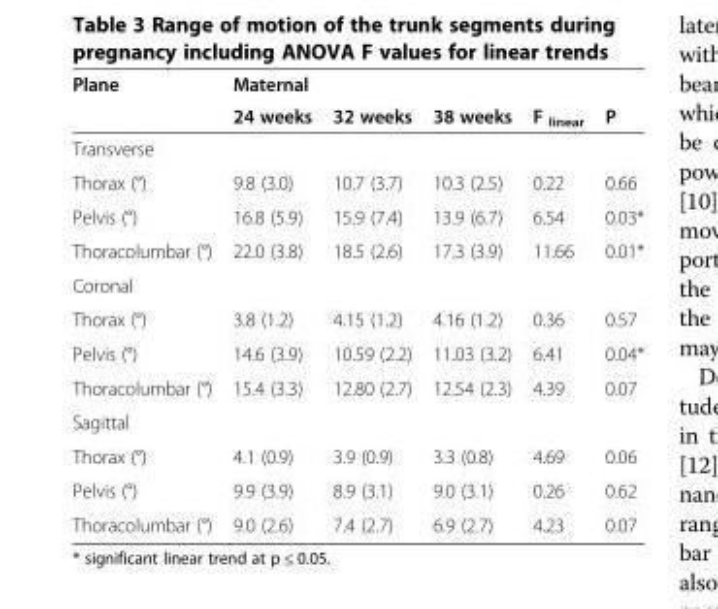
<table><thead><tr><td>Plane</td><td>Maternal 24 weeks</td><td>32 weeks</td><td>38 weeks</td><td>F <sub>linear</sub></td><td>P</td></tr></thead><tbody><tr><td colspan="6">Transverse</td></tr><tr><td>Thorax (°)</td><td>9.8 (3.0)</td><td>10.7 (3.7)</td><td>10.3 (2.5)</td><td>0.22</td><td>0.66</td></tr><tr><td>Pelvis (°)</td><td>16.8 (5.9)</td><td>15.9 (7.4)</td><td>13.9 (6.7)</td><td>6.54</td><td>0.03*</td></tr><tr><td>Thoracolumbar (°)</td><td>22.0 (3.8)</td><td>18.5 (2.6)</td><td>17.3 (3.9)</td><td>11.66</td><td>0.01*</td></tr><tr><td colspan="6">Coronal</td></tr><tr><td>Thorax (°)</td><td>3.8 (1.2)</td><td>4.15 (1.2)</td><td>4.16 (1.2)</td><td>0.36</td><td>0.57</td></tr><tr><td>Pelvis (°)</td><td>14.6 (3.9)</td><td>10.59 (2.2)</td><td>11.03 (3.2)</td><td>6.41</td><td>0.04*</td></tr><tr><td>Thoracolumbar (°)</td><td>15.4 (3.3)</td><td>12.80 (2.7)</td><td>12.54 (2.3)</td><td>4.39</td><td>0.07</td></tr><tr><td colspan="6">Sagittal</td></tr><tr><td>Thorax (°)</td><td>4.1 (0.9)</td><td>3.9 (0.9)</td><td>3.3 (0.8)</td><td>4.69</td><td>0.06</td></tr><tr><td>Pelvis (°)</td><td>9.9 (3.9)</td><td>8.9 (3.1)</td><td>9.0 (3.1)</td><td>0.26</td><td>0.62</td></tr><tr><td>Thoracolumbar (°)</td><td>9.0 (2.6)</td><td>7.4 (2.7)</td><td>6.9 (2.7)</td><td>4.23</td><td>0.07</td></tr></tbody></table>